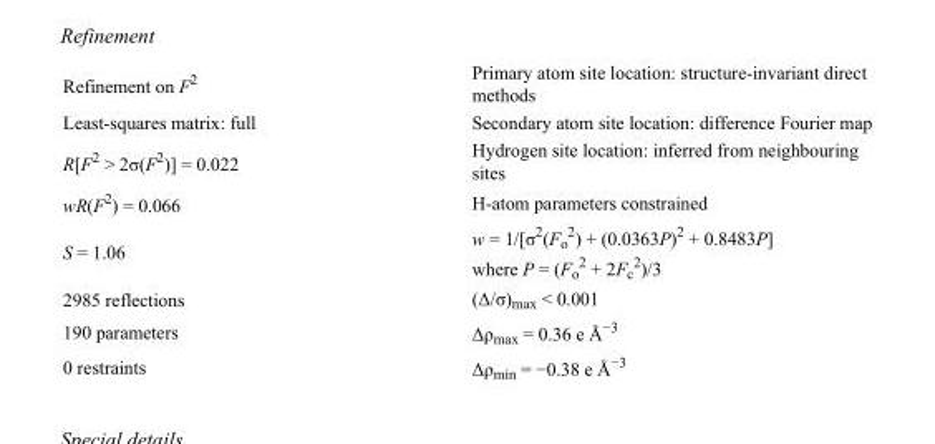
<table><tbody><tr><td>Refinement on F<sup>2</sup></td><td>Primary atom site location: structure-invariant direct methods</td></tr><tr><td>Least-squares matrix: full</td><td>Secondary atom site location: difference Fourier map</td></tr><tr><td>R[F<sup>2</sup> &gt; 2σ(F<sup>2</sup>)] = 0.022</td><td>Hydrogen site location: inferred from neighbouring sites</td></tr><tr><td>wR(F<sup>2</sup>) = 0.066</td><td>H-atom parameters constrained</td></tr><tr><td>S = 1.06</td><td>w = 1/[σ<sup>2</sup>(F<sub>o</sub> <sup>2</sup>) + (0.0363P)<sup>2</sup> + 0.8483P] where P = (F<sub>o</sub> <sup>2</sup> + 2F<sub>c</sub> <sup>2</sup>)/3</td></tr><tr><td>2985 reflections</td><td>(Δ/σ)<sub>max</sub> &lt; 0.001</td></tr><tr><td>190 parameters</td><td>Δρ<sub>max</sub> = 0.36 e Å<sup>−3</sup></td></tr><tr><td>0 restraints</td><td>Δρ<sub>min</sub> = −0.38 e Å<sup>−3</sup></td></tr></tbody></table>